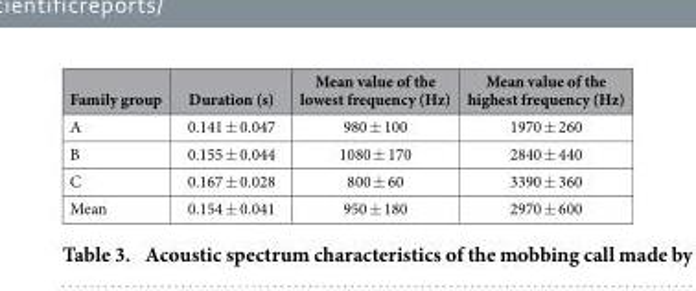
<table><thead><tr><td>Family group</td><td>Duration (s)</td><td>Mean value of the lowest frequency (Hz)</td><td>Mean value of the highest frequency (Hz)</td></tr></thead><tbody><tr><td>A</td><td>0.141 ± 0.047</td><td>980 ± 100</td><td>1970 ± 260</td></tr><tr><td>B</td><td>0.155 ± 0.044</td><td>1080 ± 170</td><td>2840 ± 440</td></tr><tr><td>C</td><td>0.167 ± 0.028</td><td>800 ± 60</td><td>3390 ± 360</td></tr><tr><td>Mean</td><td>0.154 ± 0.041</td><td>950 ± 180</td><td>2970 ± 600</td></tr></tbody></table>